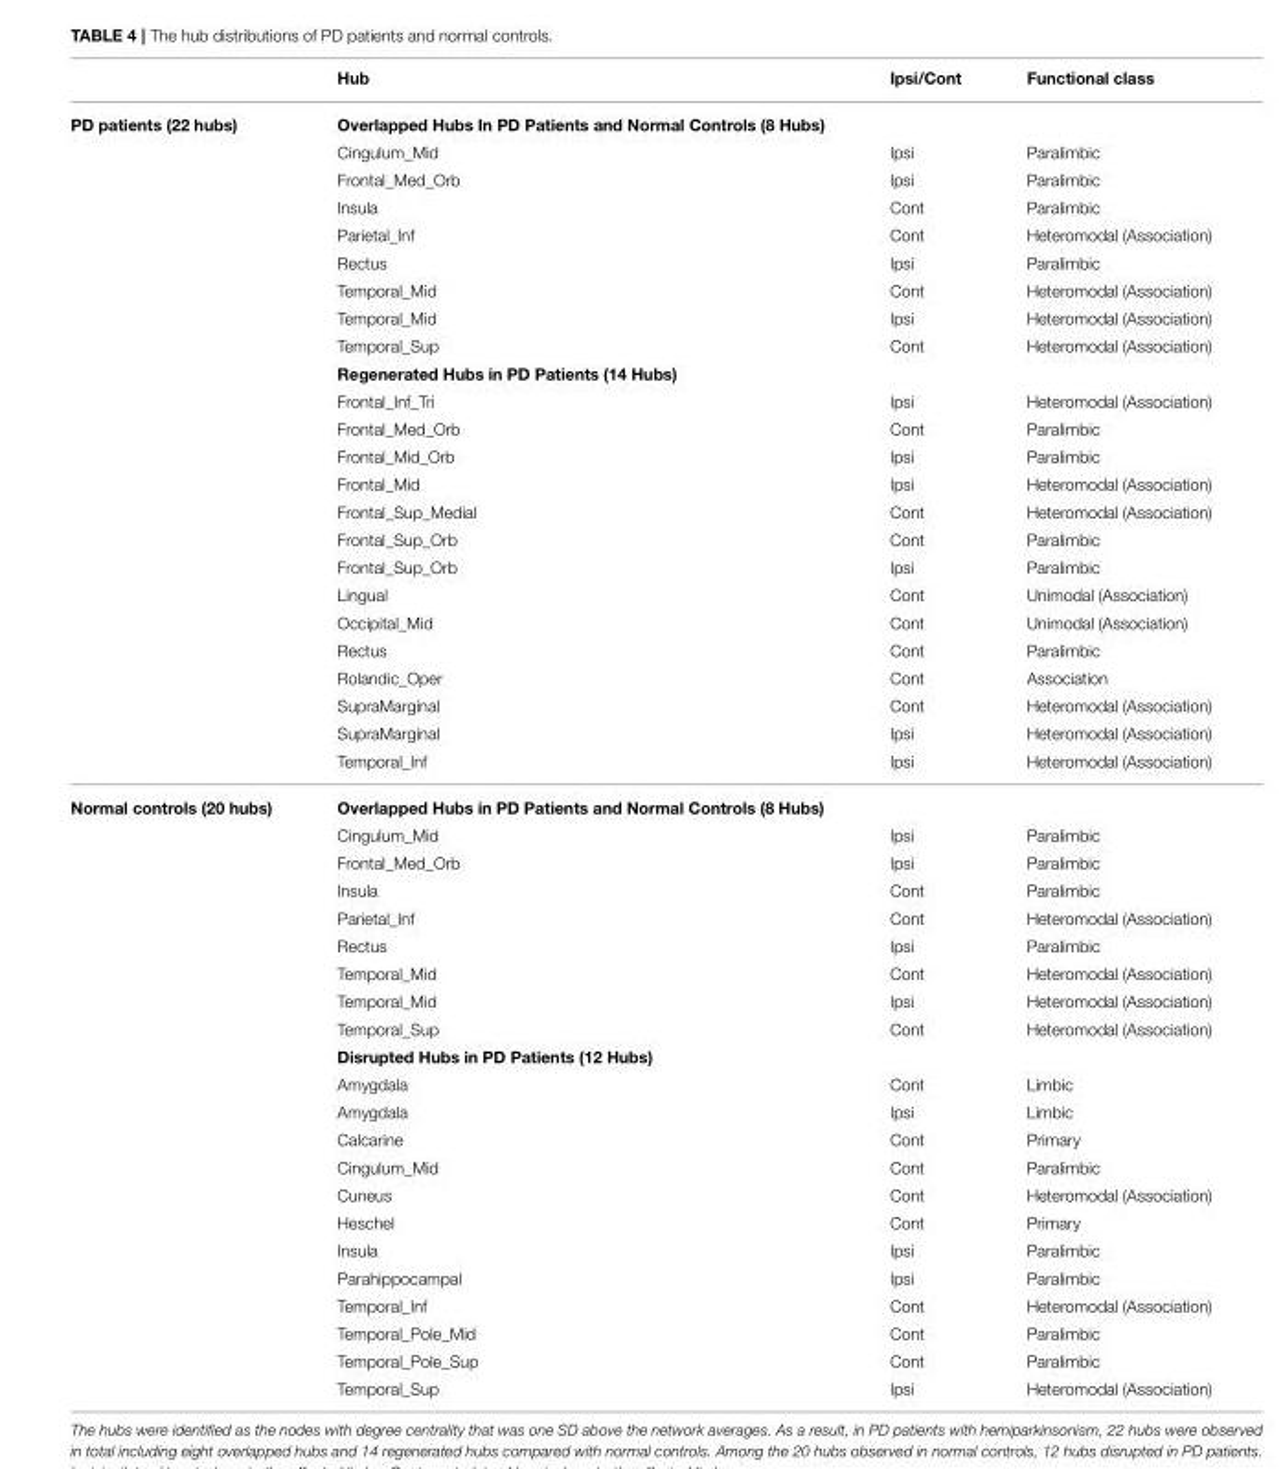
<table><thead><tr><td></td><td>Hub</td><td>Ipsi/Cont</td><td>Functional class</td></tr></thead><tbody><tr><td rowspan="24">PD patients (22 hubs)</td><td>Overlapped Hubs In PD Patients and Normal Controls (8 Hubs)</td><td></td><td></td></tr><tr><td>Cingulum_Mid</td><td>Ipsi</td><td>Paralimbic</td></tr><tr><td>Frontal_Med_Orb</td><td>Ipsi</td><td>Paralimbic</td></tr><tr><td>Insula</td><td>Cont</td><td>Paralimbic</td></tr><tr><td>Parietal_Inf</td><td>Cont</td><td>Heteromodal (Association)</td></tr><tr><td>Rectus</td><td>Ipsi</td><td>Paralimbic</td></tr><tr><td>Temporal_Mid</td><td>Cont</td><td>Heteromodal (Association)</td></tr><tr><td>Temporal_Mid</td><td>Ipsi</td><td>Heteromodal (Association)</td></tr><tr><td>Temporal_Sup</td><td>Cont</td><td>Heteromodal (Association)</td></tr><tr><td>Regenerated Hubs in PD Patients (14 Hubs)</td><td></td><td></td></tr><tr><td>Frontal_Inf_Tri</td><td>Ipsi</td><td>Heteromodal (Association)</td></tr><tr><td>Frontal_Med_Orb</td><td>Cont</td><td>Paralimbic</td></tr><tr><td>Frontal_Mid_Orb</td><td>Ipsi</td><td>Paralimbic</td></tr><tr><td>Frontal_Mid</td><td>Ipsi</td><td>Heteromodal (Association)</td></tr><tr><td>Frontal_Sup_Medial</td><td>Cont</td><td>Heteromodal (Association)</td></tr><tr><td>Frontal_Sup_Orb</td><td>Cont</td><td>Paralimbic</td></tr><tr><td>Frontal_Sup_Orb</td><td>Ipsi</td><td>Paralimbic</td></tr><tr><td>Lingual</td><td>Cont</td><td>Unimodal (Association)</td></tr><tr><td>Occipital_Mid</td><td>Cont</td><td>Unimodal (Association)</td></tr><tr><td>Rectus</td><td>Cont</td><td>Paralimbic</td></tr><tr><td>Rolandic_Oper</td><td>Cont</td><td>Association</td></tr><tr><td>SupraMarginal</td><td>Cont</td><td>Heteromodal (Association)</td></tr><tr><td>SupraMarginal</td><td>Ipsi</td><td>Heteromodal (Association)</td></tr><tr><td>Temporal_Inf</td><td>Ipsi</td><td>Heteromodal (Association)</td></tr><tr><td rowspan="22">Normal controls (20 hubs)</td><td>Overlapped Hubs in PD Patients and Normal Controls (8 Hubs)</td><td></td><td></td></tr><tr><td>Cingulum_Mid</td><td>Ipsi</td><td>Paralimbic</td></tr><tr><td>Frontal_Med_Orb</td><td>Ipsi</td><td>Paralimbic</td></tr><tr><td>Insula</td><td>Cont</td><td>Paralimbic</td></tr><tr><td>Parietal_Inf</td><td>Cont</td><td>Heteromodal (Association)</td></tr><tr><td>Rectus</td><td>Ipsi</td><td>Paralimbic</td></tr><tr><td>Temporal_Mid</td><td>Cont</td><td>Heteromodal (Association)</td></tr><tr><td>Temporal_Mid</td><td>Ipsi</td><td>Heteromodal (Association)</td></tr><tr><td>Temporal_Sup</td><td>Cont</td><td>Heteromodal (Association)</td></tr><tr><td>Disrupted Hubs in PD Patients (12 Hubs)</td><td></td><td></td></tr><tr><td>Amygdala</td><td>Cont</td><td>Limbic</td></tr><tr><td>Amygdala</td><td>Ipsi</td><td>Limbic</td></tr><tr><td>Calcarine</td><td>Cont</td><td>Primary</td></tr><tr><td>Cingulum_Mid</td><td>Cont</td><td>Paralimbic</td></tr><tr><td>Cuneus</td><td>Cont</td><td>Heteromodal (Association)</td></tr><tr><td>Heschel</td><td>Cont</td><td>Primary</td></tr><tr><td>Insula</td><td>Ipsi</td><td>Paralimbic</td></tr><tr><td>Parahippocampal</td><td>Ipsi</td><td>Paralimbic</td></tr><tr><td>Temporal_Inf</td><td>Cont</td><td>Heteromodal (Association)</td></tr><tr><td>Temporal_Pole_Mid</td><td>Cont</td><td>Paralimbic</td></tr><tr><td>Temporal_Pole_Sup</td><td>Cont</td><td>Paralimbic</td></tr><tr><td>Temporal_Sup</td><td>Ipsi</td><td>Heteromodal (Association)</td></tr></tbody></table>